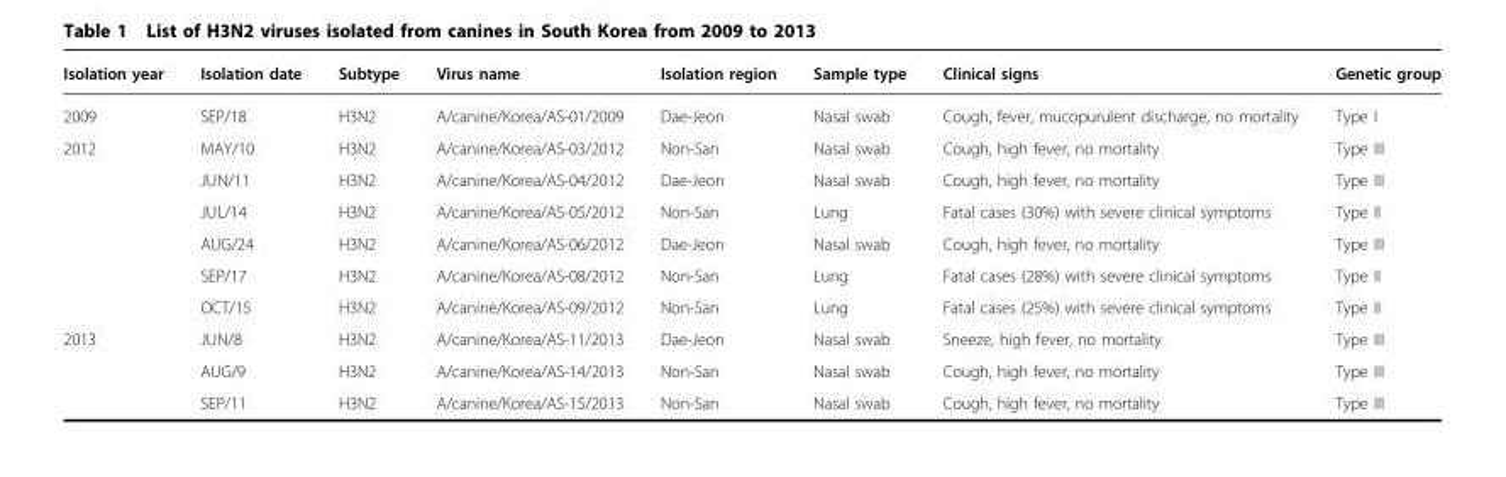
<table><thead><tr><td>Isolation year</td><td>Isolation date</td><td>Subtype</td><td>Virus name</td><td>Isolation region</td><td>Sample type</td><td>Clinical signs</td><td>Genetic group</td></tr></thead><tbody><tr><td>2009</td><td>SEP/18</td><td>H3N2</td><td>A/canine/Korea/AS-01/2009</td><td>Dae-Jeon</td><td>Nasal swab</td><td>Cough, fever, mucopurulent discharge, no mortality</td><td>Type I</td></tr><tr><td rowspan="6">2012</td><td>MAY/10</td><td>H3N2</td><td>A/canine/Korea/AS-03/2012</td><td>Non-San</td><td>Nasal swab</td><td>Cough, high fever, no mortality</td><td>Type III</td></tr><tr><td>JUN/11</td><td>H3N2</td><td>A/canine/Korea/AS-04/2012</td><td>Dae-Jeon</td><td>Nasal swab</td><td>Cough, high fever, no mortality</td><td>Type III</td></tr><tr><td>JUL/14</td><td>H3N2</td><td>A/canine/Korea/AS-05/2012</td><td>Non-San</td><td>Lung</td><td>Fatal cases (30%) with severe clinical symptoms</td><td>Type II</td></tr><tr><td>AUG/24</td><td>H3N2</td><td>A/canine/Korea/AS-06/2012</td><td>Dae-Jeon</td><td>Nasal swab</td><td>Cough, high fever, no mortality</td><td>Type III</td></tr><tr><td>SEP/17</td><td>H3N2</td><td>A/canine/Korea/AS-08/2012</td><td>Non-San</td><td>Lung</td><td>Fatal cases (28%) with severe clinical symptoms</td><td>Type II</td></tr><tr><td>OCT/15</td><td>H3N2</td><td>A/canine/Korea/AS-09/2012</td><td>Non-San</td><td>Lung</td><td>Fatal cases (25%) with severe clinical symptoms</td><td>Type II</td></tr><tr><td rowspan="3">2013</td><td>JUN/8</td><td>H3N2</td><td>A/canine/Korea/AS-11/2013</td><td>Dae-Jeon</td><td>Nasal swab</td><td>Sneeze, high fever, no mortality</td><td>Type III</td></tr><tr><td>AUG/9</td><td>H3N2</td><td>A/canine/Korea/AS-14/2013</td><td>Non-San</td><td>Nasal swab</td><td>Cough, high fever, no mortality</td><td>Type III</td></tr><tr><td>SEP/11</td><td>H3N2</td><td>A/canine/Korea/AS-15/2013</td><td>Non-San</td><td>Nasal swab</td><td>Cough, high fever, no mortality</td><td>Type III</td></tr></tbody></table>